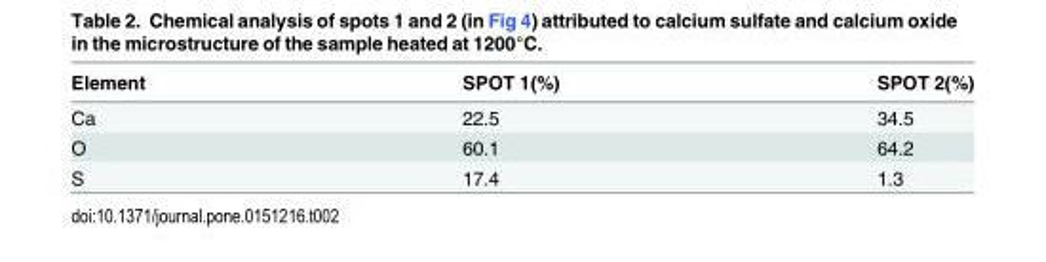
<table><thead><tr><td>Element</td><td>SPOT 1(%)</td><td>SPOT 2(%)</td></tr></thead><tbody><tr><td>Ca</td><td>22.5</td><td>34.5</td></tr><tr><td>O</td><td>60.1</td><td>64.2</td></tr><tr><td>S</td><td>17.4</td><td>1.3</td></tr></tbody></table>